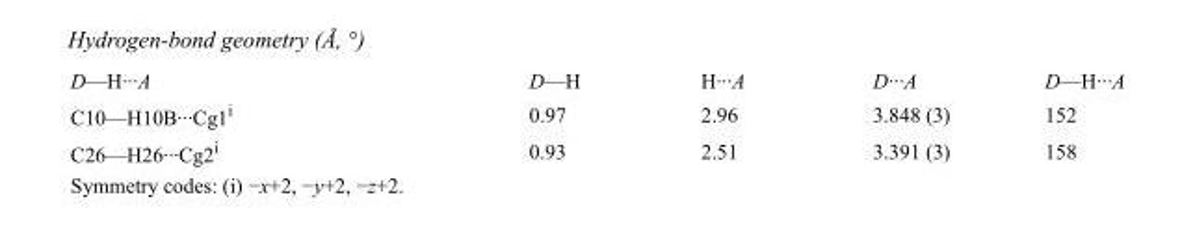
<table><tbody><tr><td>D—H···A</td><td>D—H</td><td>H···A</td><td>D···A</td><td>D—H···A</td></tr><tr><td>C10—H10B···Cg1<sup>i</sup></td><td>0.97</td><td>2.96</td><td>3.848 (3)</td><td>152</td></tr><tr><td>C26—H26···Cg2<sup>i</sup></td><td>0.93</td><td>2.51</td><td>3.391 (3)</td><td>158</td></tr></tbody></table>